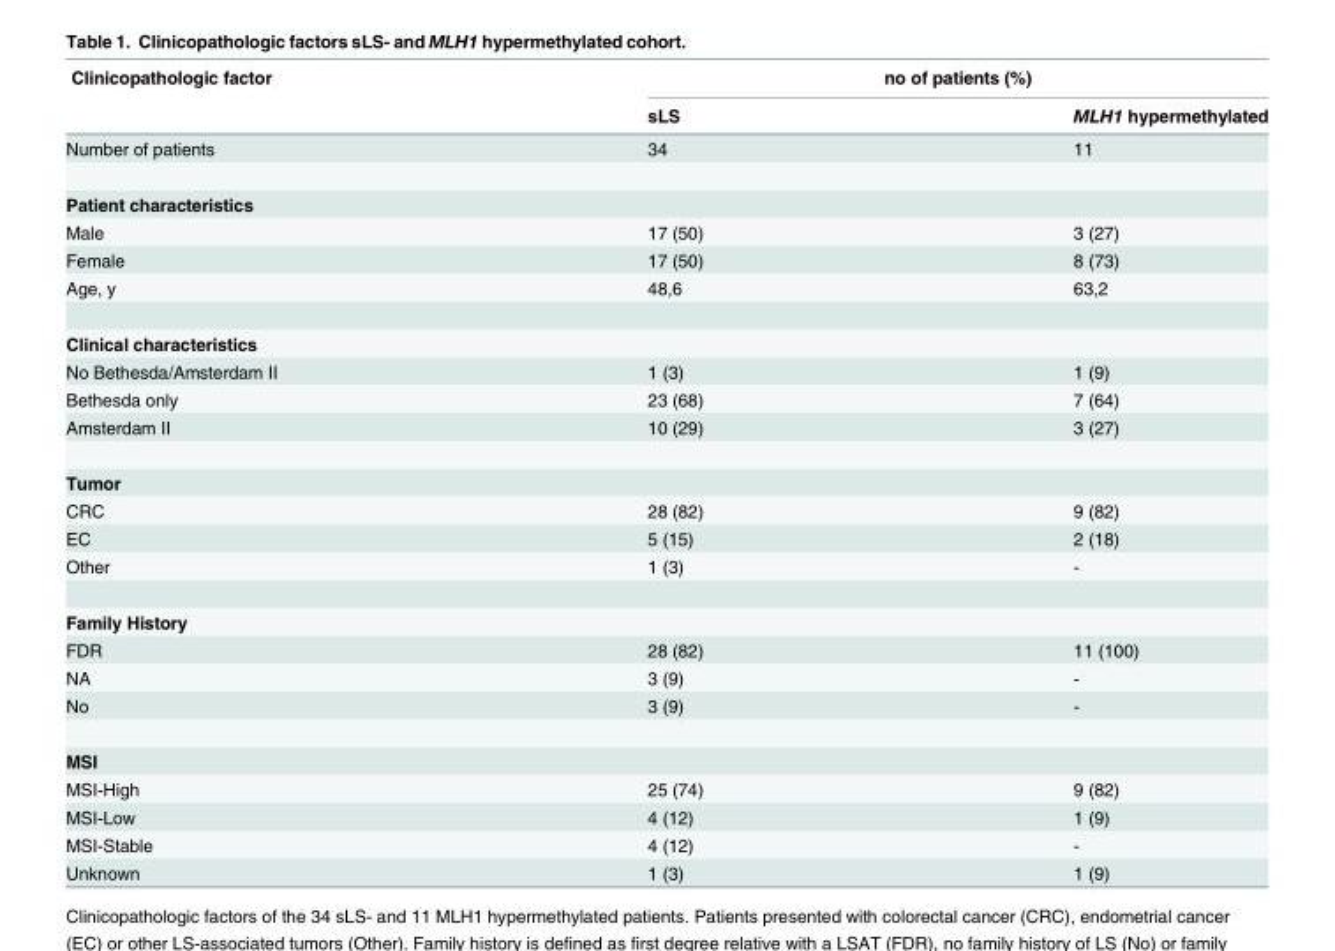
<table><thead><tr><td rowspan="2">Clinicopathologic factor</td><td colspan="2">no of patients (%)</td></tr><tr><td>sLS</td><td>MLH1 hypermethylated</td></tr></thead><tbody><tr><td>Number of patients</td><td>34</td><td>11</td></tr><tr><td colspan="3">Patient characteristics</td></tr><tr><td>Male</td><td>17 (50)</td><td>3 (27)</td></tr><tr><td>Female</td><td>17 (50)</td><td>8 (73)</td></tr><tr><td>Age, y</td><td>48,6</td><td>63,2</td></tr><tr><td colspan="3">Clinical characteristics</td></tr><tr><td>No Bethesda/Amsterdam II</td><td>1 (3)</td><td>1 (9)</td></tr><tr><td>Bethesda only</td><td>23 (68)</td><td>7 (64)</td></tr><tr><td>Amsterdam II</td><td>10 (29)</td><td>3 (27)</td></tr><tr><td colspan="3">Tumor</td></tr><tr><td>CRC</td><td>28 (82)</td><td>9 (82)</td></tr><tr><td>EC</td><td>5 (15)</td><td>2 (18)</td></tr><tr><td>Other</td><td>1 (3)</td><td>-</td></tr><tr><td colspan="3">Family History</td></tr><tr><td>FDR</td><td>28 (82)</td><td>11 (100)</td></tr><tr><td>NA</td><td>3 (9)</td><td>-</td></tr><tr><td>No</td><td>3 (9)</td><td>-</td></tr><tr><td colspan="3">MSI</td></tr><tr><td>MSI-High</td><td>25 (74)</td><td>9 (82)</td></tr><tr><td>MSI-Low</td><td>4 (12)</td><td>1 (9)</td></tr><tr><td>MSI-Stable</td><td>4 (12)</td><td>-</td></tr><tr><td>Unknown</td><td>1 (3)</td><td>1 (9)</td></tr></tbody></table>